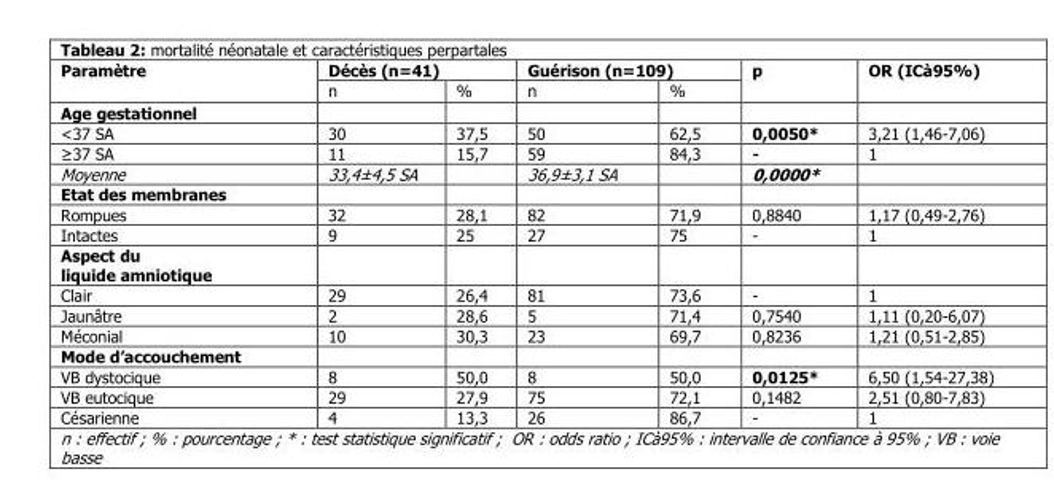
<table><thead><tr><td rowspan="2">Paramètre</td><td colspan="2">Décès (n=41)</td><td colspan="2">Guérison (n=109)</td><td rowspan="2">p</td><td rowspan="2">OR (ICà95%)</td></tr><tr><td>n</td><td>%</td><td>n</td><td>%</td></tr></thead><tbody><tr><td colspan="7">Age gestationnel</td></tr><tr><td>&lt;37 SA</td><td>30</td><td>37,5</td><td>50</td><td>62,5</td><td>0,0050*</td><td>3,21 (1,46-7,06)</td></tr><tr><td>≥37 SA</td><td>11</td><td>15,7</td><td>59</td><td>84,3</td><td>-</td><td>1</td></tr><tr><td>Moyenne</td><td>33,4±4,5 SA</td><td></td><td>36,9±3,1 SA</td><td></td><td>0,0000*</td><td></td></tr><tr><td colspan="7">Etat des membranes</td></tr><tr><td>Rompues</td><td>32</td><td>28,1</td><td>82</td><td>71,9</td><td>0,8840</td><td>1,17 (0,49-2,76)</td></tr><tr><td>Intactes</td><td>9</td><td>25</td><td>27</td><td>75</td><td>-</td><td>1</td></tr><tr><td colspan="7">Aspect du liquide amniotique</td></tr><tr><td>Clair</td><td>29</td><td>26,4</td><td>81</td><td>73,6</td><td>-</td><td>1</td></tr><tr><td>Jaunâtre</td><td>2</td><td>28,6</td><td>5</td><td>71,4</td><td>0,7540</td><td>1,11 (0,20-6,07)</td></tr><tr><td>Méconial</td><td>10</td><td>30,3</td><td>23</td><td>69,7</td><td>0,8236</td><td>1,21 (0,51-2,85)</td></tr><tr><td colspan="7">Mode d’accouchement</td></tr><tr><td>VB dystocique</td><td>8</td><td>50,0</td><td>8</td><td>50,0</td><td>0,0125*</td><td>6,50 (1,54-27,38)</td></tr><tr><td>VB eutocique</td><td>29</td><td>27,9</td><td>75</td><td>72,1</td><td>0,1482</td><td>2,51 (0,80-7,83)</td></tr><tr><td>Césarienne</td><td>4</td><td>13,3</td><td>26</td><td>86,7</td><td>-</td><td>1</td></tr></tbody></table>